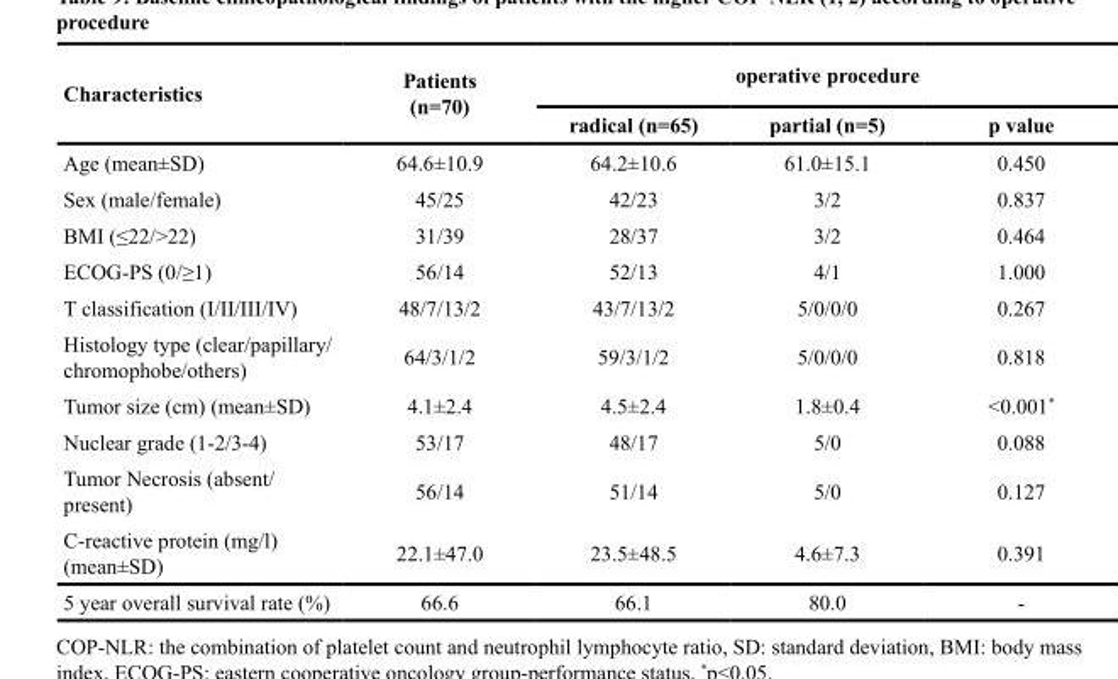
<table><thead><tr><td rowspan="2">Characteristics</td><td rowspan="2">Patients (n=70)</td><td colspan="3">operative procedure</td></tr><tr><td>radical (n=65)</td><td>partial (n=5)</td><td>p value</td></tr></thead><tbody><tr><td>Age (mean±SD)</td><td>64.6±10.9</td><td>64.2±10.6</td><td>61.0±15.1</td><td>0.450</td></tr><tr><td>Sex (male/female)</td><td>45/25</td><td>42/23</td><td>3/2</td><td>0.837</td></tr><tr><td>BMI (≤22/&gt;22)</td><td>31/39</td><td>28/37</td><td>3/2</td><td>0.464</td></tr><tr><td>ECOG-PS (0/≥1)</td><td>56/14</td><td>52/13</td><td>4/1</td><td>1.000</td></tr><tr><td>T classification (I/II/III/IV)</td><td>48/7/13/2</td><td>43/7/13/2</td><td>5/0/0/0</td><td>0.267</td></tr><tr><td>Histology type (clear/papillary/ chromophobe/others)</td><td>64/3/1/2</td><td>59/3/1/2</td><td>5/0/0/0</td><td>0.818</td></tr><tr><td>Tumor size (cm) (mean±SD)</td><td>4.1±2.4</td><td>4.5±2.4</td><td>1.8±0.4</td><td>&lt;0.001*</td></tr><tr><td>Nuclear grade (1-2/3-4)</td><td>53/17</td><td>48/17</td><td>5/0</td><td>0.088</td></tr><tr><td>Tumor Necrosis (absent/ present)</td><td>56/14</td><td>51/14</td><td>5/0</td><td>0.127</td></tr><tr><td>C-reactive protein (mg/l) (mean±SD)</td><td>22.1±47.0</td><td>23.5±48.5</td><td>4.6±7.3</td><td>0.391</td></tr><tr><td>5 year overall survival rate (%)</td><td>66.6</td><td>66.1</td><td>80.0</td><td>-</td></tr></tbody></table>